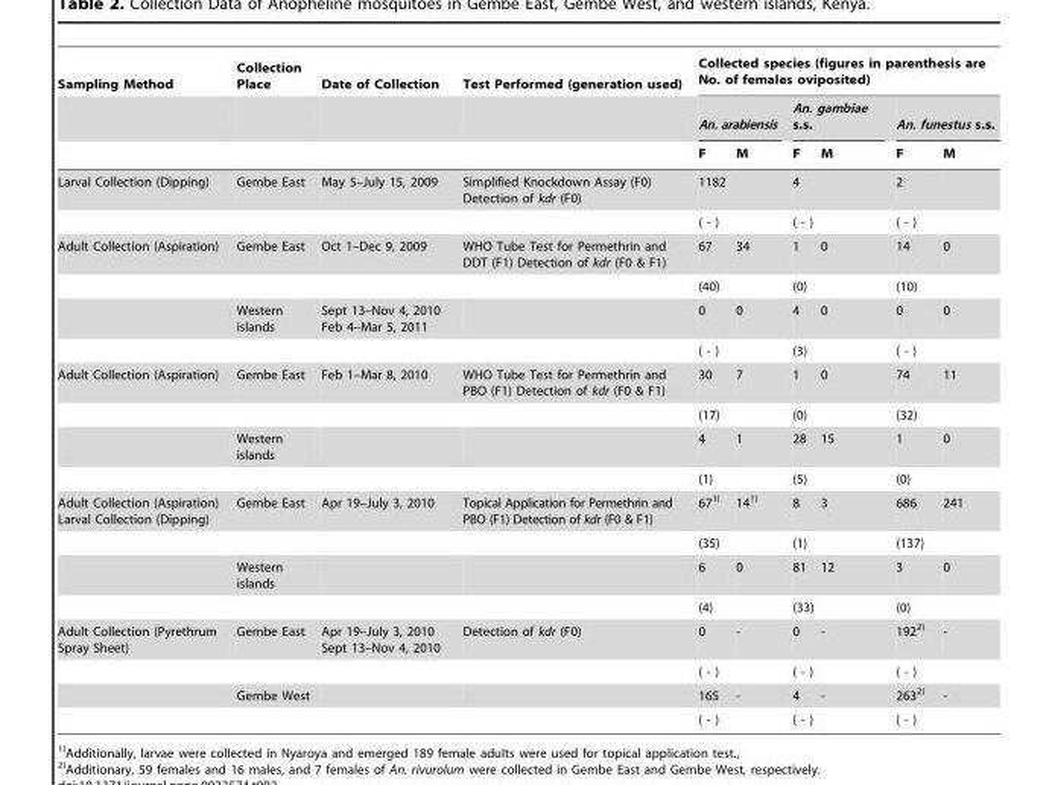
<table><thead><tr><td rowspan="3">Sampling Method</td><td rowspan="3">Collection Place</td><td rowspan="3">Date of Collection</td><td rowspan="3">Test Performed (generation used)</td><td colspan="6">Collected species (figures in parenthesis are No. of females oviposited)</td></tr><tr><td colspan="2">An. arabiensis</td><td colspan="2">An. gambiae s.s.</td><td colspan="2">An. funestus s.s.</td></tr><tr><td>F</td><td>M</td><td>F</td><td>M</td><td>F</td><td>M</td></tr></thead><tbody><tr><td rowspan="2">Larval Collection (Dipping)</td><td>Gembe East</td><td>May 5–July 15, 2009</td><td>Simplified Knockdown Assay (F0) Detection of kdr (F0)</td><td colspan="2">1182</td><td colspan="2">4</td><td colspan="2">2</td></tr><tr><td></td><td></td><td></td><td colspan="2">( - )</td><td colspan="2">( - )</td><td colspan="2">( - )</td></tr><tr><td rowspan="4">Adult Collection (Aspiration)</td><td>Gembe East</td><td>Oct 1–Dec 9, 2009</td><td>WHO Tube Test for Permethrin and DDT (F1) Detection of kdr (F0 &amp; F1)</td><td>67</td><td>34</td><td>1</td><td>0</td><td>14</td><td>0</td></tr><tr><td></td><td></td><td></td><td colspan="2">(40)</td><td colspan="2">(0)</td><td colspan="2">(10)</td></tr><tr><td>Western islands</td><td>Sept 13–Nov 4, 2010 Feb 4–Mar 5, 2011</td><td></td><td>0</td><td>0</td><td>4</td><td>0</td><td>0</td><td>0</td></tr><tr><td></td><td></td><td></td><td colspan="2">( - )</td><td colspan="2">(3)</td><td colspan="2">( - )</td></tr><tr><td rowspan="4">Adult Collection (Aspiration)</td><td>Gembe East</td><td>Feb 1–Mar 8, 2010</td><td>WHO Tube Test for Permethrin and PBO (F1) Detection of kdr (F0 &amp; F1)</td><td>30</td><td>7</td><td>1</td><td>0</td><td>74</td><td>11</td></tr><tr><td></td><td></td><td></td><td colspan="2">(17)</td><td colspan="2">(0)</td><td colspan="2">(32)</td></tr><tr><td>Western islands</td><td></td><td></td><td>4</td><td>1</td><td>28</td><td>15</td><td>1</td><td>0</td></tr><tr><td></td><td></td><td></td><td colspan="2">(1)</td><td colspan="2">(5)</td><td colspan="2">(0)</td></tr><tr><td rowspan="4">Adult Collection (Aspiration) Larval Collection (Dipping)</td><td>Gembe East</td><td>Apr 19–July 3, 2010</td><td>Topical Application for Permethrin and PBO (F1) Detection of kdr (F0 &amp; F1)</td><td>671)</td><td>141)</td><td>8</td><td>3</td><td>686</td><td>241</td></tr><tr><td></td><td></td><td></td><td colspan="2">(35)</td><td colspan="2">(1)</td><td colspan="2">(137)</td></tr><tr><td>Western islands</td><td></td><td></td><td>6</td><td>0</td><td>81</td><td>12</td><td>3</td><td>0</td></tr><tr><td></td><td></td><td></td><td colspan="2">(4)</td><td colspan="2">(33)</td><td colspan="2">(0)</td></tr><tr><td rowspan="4">Adult Collection (Pyrethrum Spray Sheet)</td><td>Gembe East</td><td>Apr 19–July 3, 2010 Sept 13–Nov 4, 2010</td><td>Detection of kdr (F0)</td><td>0</td><td>-</td><td>0</td><td>-</td><td>1922)</td><td>-</td></tr><tr><td></td><td></td><td></td><td colspan="2">( - )</td><td colspan="2">( - )</td><td colspan="2">( - )</td></tr><tr><td>Gembe West</td><td></td><td></td><td>165</td><td>-</td><td>4</td><td>-</td><td>2632)</td><td>-</td></tr><tr><td></td><td></td><td></td><td colspan="2">( - )</td><td colspan="2">( - )</td><td colspan="2">( - )</td></tr></tbody></table>